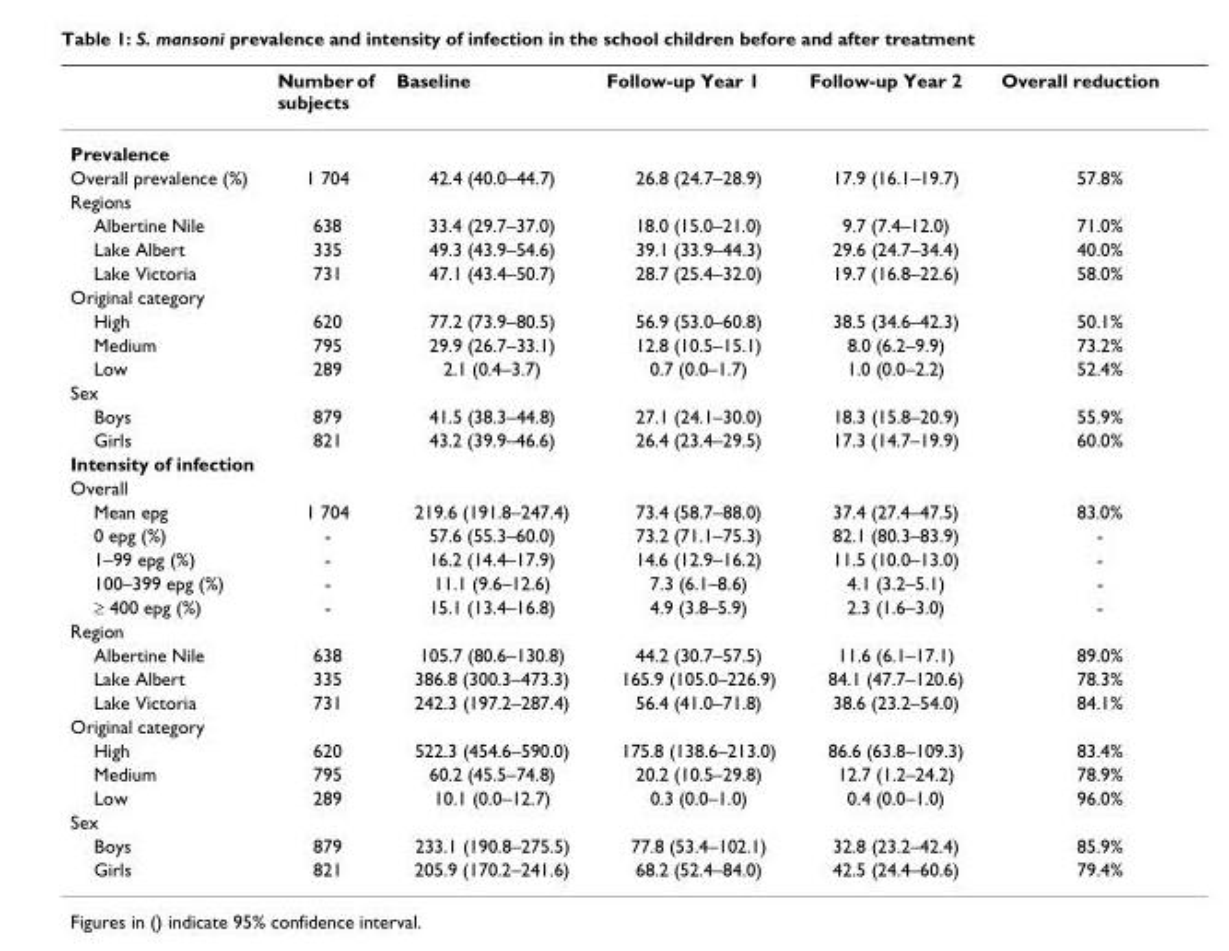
<table><thead><tr><td></td><td>Number of subjects</td><td>Baseline</td><td>Follow-up Year 1</td><td>Follow-up Year 2</td><td>Overall reduction</td></tr></thead><tbody><tr><td colspan="6">Prevalence</td></tr><tr><td>Overall prevalence (%)</td><td>1 704</td><td>42.4 (40.0–44.7)</td><td>26.8 (24.7–28.9)</td><td>17.9 (16.1–19.7)</td><td>57.8%</td></tr><tr><td colspan="6">Regions</td></tr><tr><td>Albertine Nile</td><td>638</td><td>33.4 (29.7–37.0)</td><td>18.0 (15.0–21.0)</td><td>9.7 (7.4–12.0)</td><td>71.0%</td></tr><tr><td>Lake Albert</td><td>335</td><td>49.3 (43.9–54.6)</td><td>39.1 (33.9–44.3)</td><td>29.6 (24.7–34.4)</td><td>40.0%</td></tr><tr><td>Lake Victoria</td><td>731</td><td>47.1 (43.4–50.7)</td><td>28.7 (25.4–32.0)</td><td>19.7 (16.8–22.6)</td><td>58.0%</td></tr><tr><td colspan="6">Original category</td></tr><tr><td>High</td><td>620</td><td>77.2 (73.9–80.5)</td><td>56.9 (53.0–60.8)</td><td>38.5 (34.6–42.3)</td><td>50.1%</td></tr><tr><td>Medium</td><td>795</td><td>29.9 (26.7–33.1)</td><td>12.8 (10.5–15.1)</td><td>8.0 (6.2–9.9)</td><td>73.2%</td></tr><tr><td>Low</td><td>289</td><td>2.1 (0.4–3.7)</td><td>0.7 (0.0–1.7)</td><td>1.0 (0.0–2.2)</td><td>52.4%</td></tr><tr><td colspan="6">Sex</td></tr><tr><td>Boys</td><td>879</td><td>41.5 (38.3–44.8)</td><td>27.1 (24.1–30.0)</td><td>18.3 (15.8–20.9)</td><td>55.9%</td></tr><tr><td>Girls</td><td>821</td><td>43.2 (39.9–46.6)</td><td>26.4 (23.4–29.5)</td><td>17.3 (14.7–19.9)</td><td>60.0%</td></tr><tr><td colspan="6">Intensity of infection</td></tr><tr><td colspan="6">Overall</td></tr><tr><td>Mean epg</td><td>1 704</td><td>219.6 (191.8–247.4)</td><td>73.4 (58.7–88.0)</td><td>37.4 (27.4–47.5)</td><td>83.0%</td></tr><tr><td>0 epg (%)</td><td>-</td><td>57.6 (55.3–60.0)</td><td>73.2 (71.1–75.3)</td><td>82.1 (80.3–83.9)</td><td>-</td></tr><tr><td>1–99 epg (%)</td><td>-</td><td>16.2 (14.4–17.9)</td><td>14.6 (12.9–16.2)</td><td>11.5 (10.0–13.0)</td><td>-</td></tr><tr><td>100–399 epg (%)</td><td>-</td><td>11.1 (9.6–12.6)</td><td>7.3 (6.1–8.6)</td><td>4.1 (3.2–5.1)</td><td>-</td></tr><tr><td>≥ 400 epg (%)</td><td>-</td><td>15.1 (13.4–16.8)</td><td>4.9 (3.8–5.9)</td><td>2.3 (1.6–3.0)</td><td>-</td></tr><tr><td colspan="6">Region</td></tr><tr><td>Albertine Nile</td><td>638</td><td>105.7 (80.6–130.8)</td><td>44.2 (30.7–57.5)</td><td>11.6 (6.1–17.1)</td><td>89.0%</td></tr><tr><td>Lake Albert</td><td>335</td><td>386.8 (300.3–473.3)</td><td>165.9 (105.0–226.9)</td><td>84.1 (47.7–120.6)</td><td>78.3%</td></tr><tr><td>Lake Victoria</td><td>731</td><td>242.3 (197.2–287.4)</td><td>56.4 (41.0–71.8)</td><td>38.6 (23.2–54.0)</td><td>84.1%</td></tr><tr><td colspan="6">Original category</td></tr><tr><td>High</td><td>620</td><td>522.3 (454.6–590.0)</td><td>175.8 (138.6–213.0)</td><td>86.6 (63.8–109.3)</td><td>83.4%</td></tr><tr><td>Medium</td><td>795</td><td>60.2 (45.5–74.8)</td><td>20.2 (10.5–29.8)</td><td>12.7 (1.2–24.2)</td><td>78.9%</td></tr><tr><td>Low</td><td>289</td><td>10.1 (0.0–12.7)</td><td>0.3 (0.0–1.0)</td><td>0.4 (0.0–1.0)</td><td>96.0%</td></tr><tr><td colspan="6">Sex</td></tr><tr><td>Boys</td><td>879</td><td>233.1 (190.8–275.5)</td><td>77.8 (53.4–102.1)</td><td>32.8 (23.2–42.4)</td><td>85.9%</td></tr><tr><td>Girls</td><td>821</td><td>205.9 (170.2–241.6)</td><td>68.2 (52.4–84.0)</td><td>42.5 (24.4–60.6)</td><td>79.4%</td></tr></tbody></table>